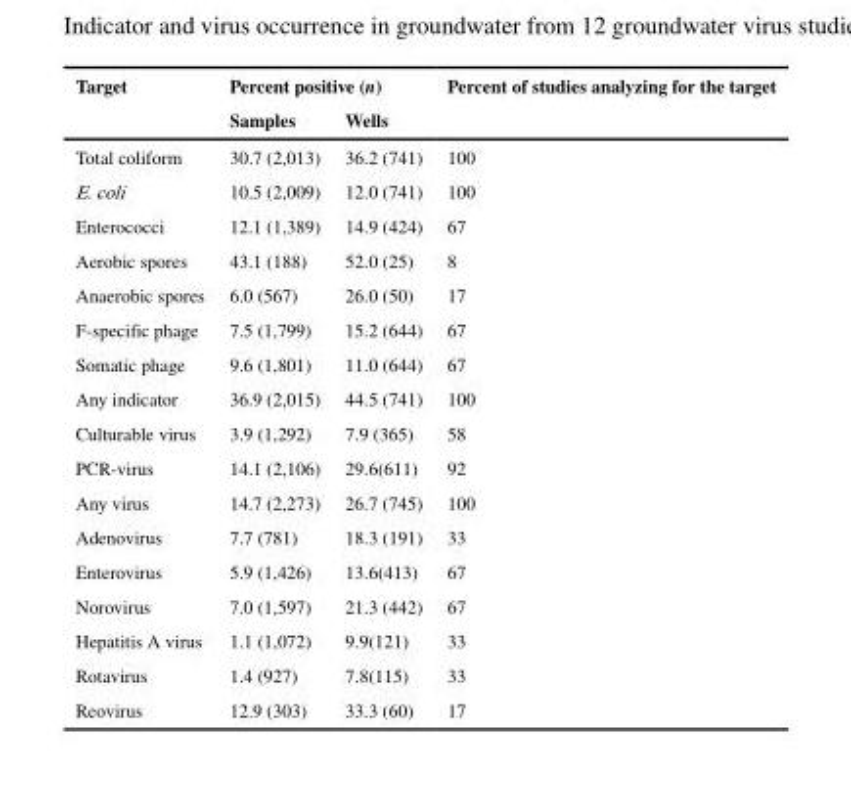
<table><thead><tr><td rowspan="2">Target</td><td colspan="2">Percent positive (n)</td><td rowspan="2">Percent of studies analyzing for the target</td></tr><tr><td>Samples</td><td>Wells</td></tr></thead><tbody><tr><td>Total coliform</td><td>30.7 (2,013)</td><td>36.2 (741)</td><td>100</td></tr><tr><td>E. coli</td><td>10.5 (2,009)</td><td>12.0 (741)</td><td>100</td></tr><tr><td>Enterococci</td><td>12.1 (1,389)</td><td>14.9 (424)</td><td>67</td></tr><tr><td>Aerobic spores</td><td>43.1 (188)</td><td>52.0 (25)</td><td>8</td></tr><tr><td>Anaerobic spores</td><td>6.0 (567)</td><td>26.0 (50)</td><td>17</td></tr><tr><td>F-specific phage</td><td>7.5 (1,799)</td><td>15.2 (644)</td><td>67</td></tr><tr><td>Somatic phage</td><td>9.6 (1,801)</td><td>11.0 (644)</td><td>67</td></tr><tr><td>Any indicator</td><td>36.9 (2,015)</td><td>44.5 (741)</td><td>100</td></tr><tr><td>Culturable virus</td><td>3.9 (1,292)</td><td>7.9 (365)</td><td>58</td></tr><tr><td>PCR-virus</td><td>14.1 (2,106)</td><td>29.6(611)</td><td>92</td></tr><tr><td>Any virus</td><td>14.7 (2,273)</td><td>26.7 (745)</td><td>100</td></tr><tr><td>Adenovirus</td><td>7.7 (781)</td><td>18.3 (191)</td><td>33</td></tr><tr><td>Enterovirus</td><td>5.9 (1,426)</td><td>13.6(413)</td><td>67</td></tr><tr><td>Norovirus</td><td>7.0 (1,597)</td><td>21.3 (442)</td><td>67</td></tr><tr><td>Hepatitis A virus</td><td>1.1 (1,072)</td><td>9.9(121)</td><td>33</td></tr><tr><td>Rotavirus</td><td>1.4 (927)</td><td>7.8(115)</td><td>33</td></tr><tr><td>Reovirus</td><td>12.9 (303)</td><td>33.3 (60)</td><td>17</td></tr></tbody></table>